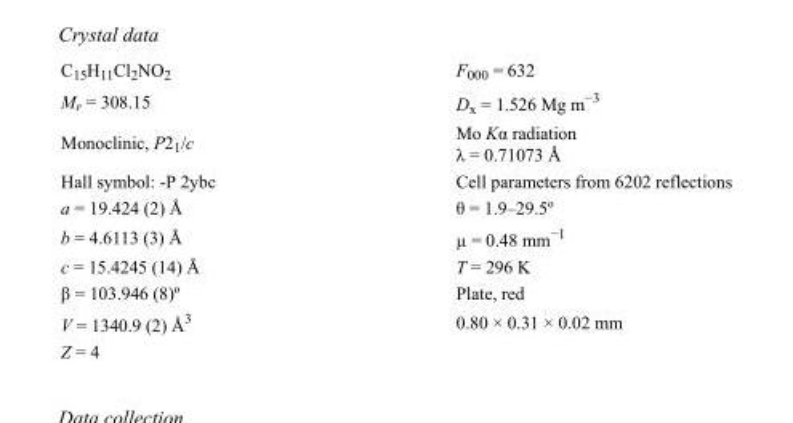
<table><tbody><tr><td>C<sub>15</sub>H<sub>11</sub>Cl<sub>2</sub>NO<sub>2</sub></td><td>F000 = 632</td></tr><tr><td>M<sub>r</sub> = 308.15</td><td>D<sub>x</sub> = 1.526 Mg m<sup>−3</sup></td></tr><tr><td>Monoclinic, P2<sub>1</sub>/c</td><td>Mo Kα radiation λ = 0.71073 Å</td></tr><tr><td>Hall symbol: -P 2ybc</td><td>Cell parameters from 6202 reflections</td></tr><tr><td>a = 19.424 (2) Å</td><td>θ = 1.9–29.5º</td></tr><tr><td>b = 4.6113 (3) Å</td><td>µ = 0.48 mm<sup>−1</sup></td></tr><tr><td>c = 15.4245 (14) Å</td><td>T = 296 K</td></tr><tr><td>β = 103.946 (8)º</td><td>Plate, red</td></tr><tr><td>V = 1340.9 (2) Å<sup>3</sup></td><td>0.80 × 0.31 × 0.02 mm</td></tr><tr><td>Z = 4</td><td></td></tr></tbody></table>